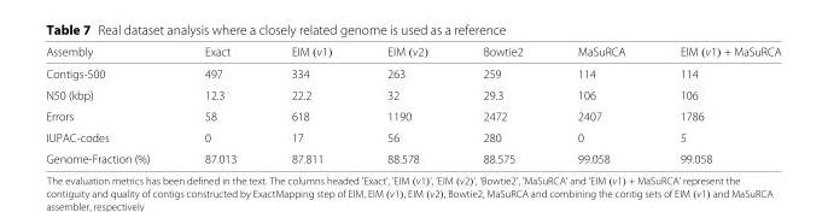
<table><thead><tr><td>Assembly</td><td>Exact</td><td>EIM (v1)</td><td>EIM (v2)</td><td>Bowtie2</td><td>MaSuRCA</td><td>EIM (v1) + MaSuRCA</td></tr></thead><tbody><tr><td>Contigs-500</td><td>497</td><td>334</td><td>263</td><td>259</td><td>114</td><td>114</td></tr><tr><td>N50 (kbp)</td><td>12.3</td><td>22.2</td><td>32</td><td>29.3</td><td>106</td><td>106</td></tr><tr><td>Errors</td><td>58</td><td>618</td><td>1190</td><td>2472</td><td>2407</td><td>1786</td></tr><tr><td>IUPAC-codes</td><td>0</td><td>17</td><td>56</td><td>280</td><td>0</td><td>5</td></tr><tr><td>Genome-Fraction (%)</td><td>87.013</td><td>87.811</td><td>88.578</td><td>88.575</td><td>99.058</td><td>99.058</td></tr></tbody></table>